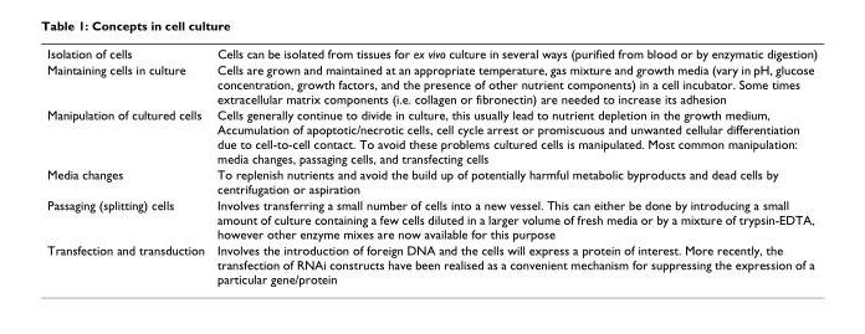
<table><tbody><tr><td>Isolation of cells</td><td>Cells can be isolated from tissues for ex vivo culture in several ways (purified from blood or by enzymatic digestion)</td></tr><tr><td>Maintaining cells in culture</td><td>Cells are grown and maintained at an appropriate temperature, gas mixture and growth media (vary in pH, glucose concentration, growth factors, and the presence of other nutrient components) in a cell incubator. Some times extracellular matrix components (i.e. collagen or fibronectin) are needed to increase its adhesion</td></tr><tr><td>Manipulation of cultured cells</td><td>Cells generally continue to divide in culture, this usually lead to nutrient depletion in the growth medium, Accumulation of apoptotic/necrotic cells, cell cycle arrest or promiscuous and unwanted cellular differentiation due to cell-to-cell contact. To avoid these problems cultured cells is manipulated. Most common manipulation: media changes, passaging cells, and transfecting cells</td></tr><tr><td>Media changes</td><td>To replenish nutrients and avoid the build up of potentially harmful metabolic byproducts and dead cells by centrifugation or aspiration</td></tr><tr><td>Passaging (splitting) cells</td><td>Involves transferring a small number of cells into a new vessel. This can either be done by introducing a small amount of culture containing a few cells diluted in a larger volume of fresh media or by a mixture of trypsin-EDTA, however other enzyme mixes are now available for this purpose</td></tr><tr><td>Transfection and transduction</td><td>Involves the introduction of foreign DNA and the cells will express a protein of interest. More recently, the transfection of RNAi constructs have been realised as a convenient mechanism for suppressing the expression of a particular gene/protein</td></tr></tbody></table>